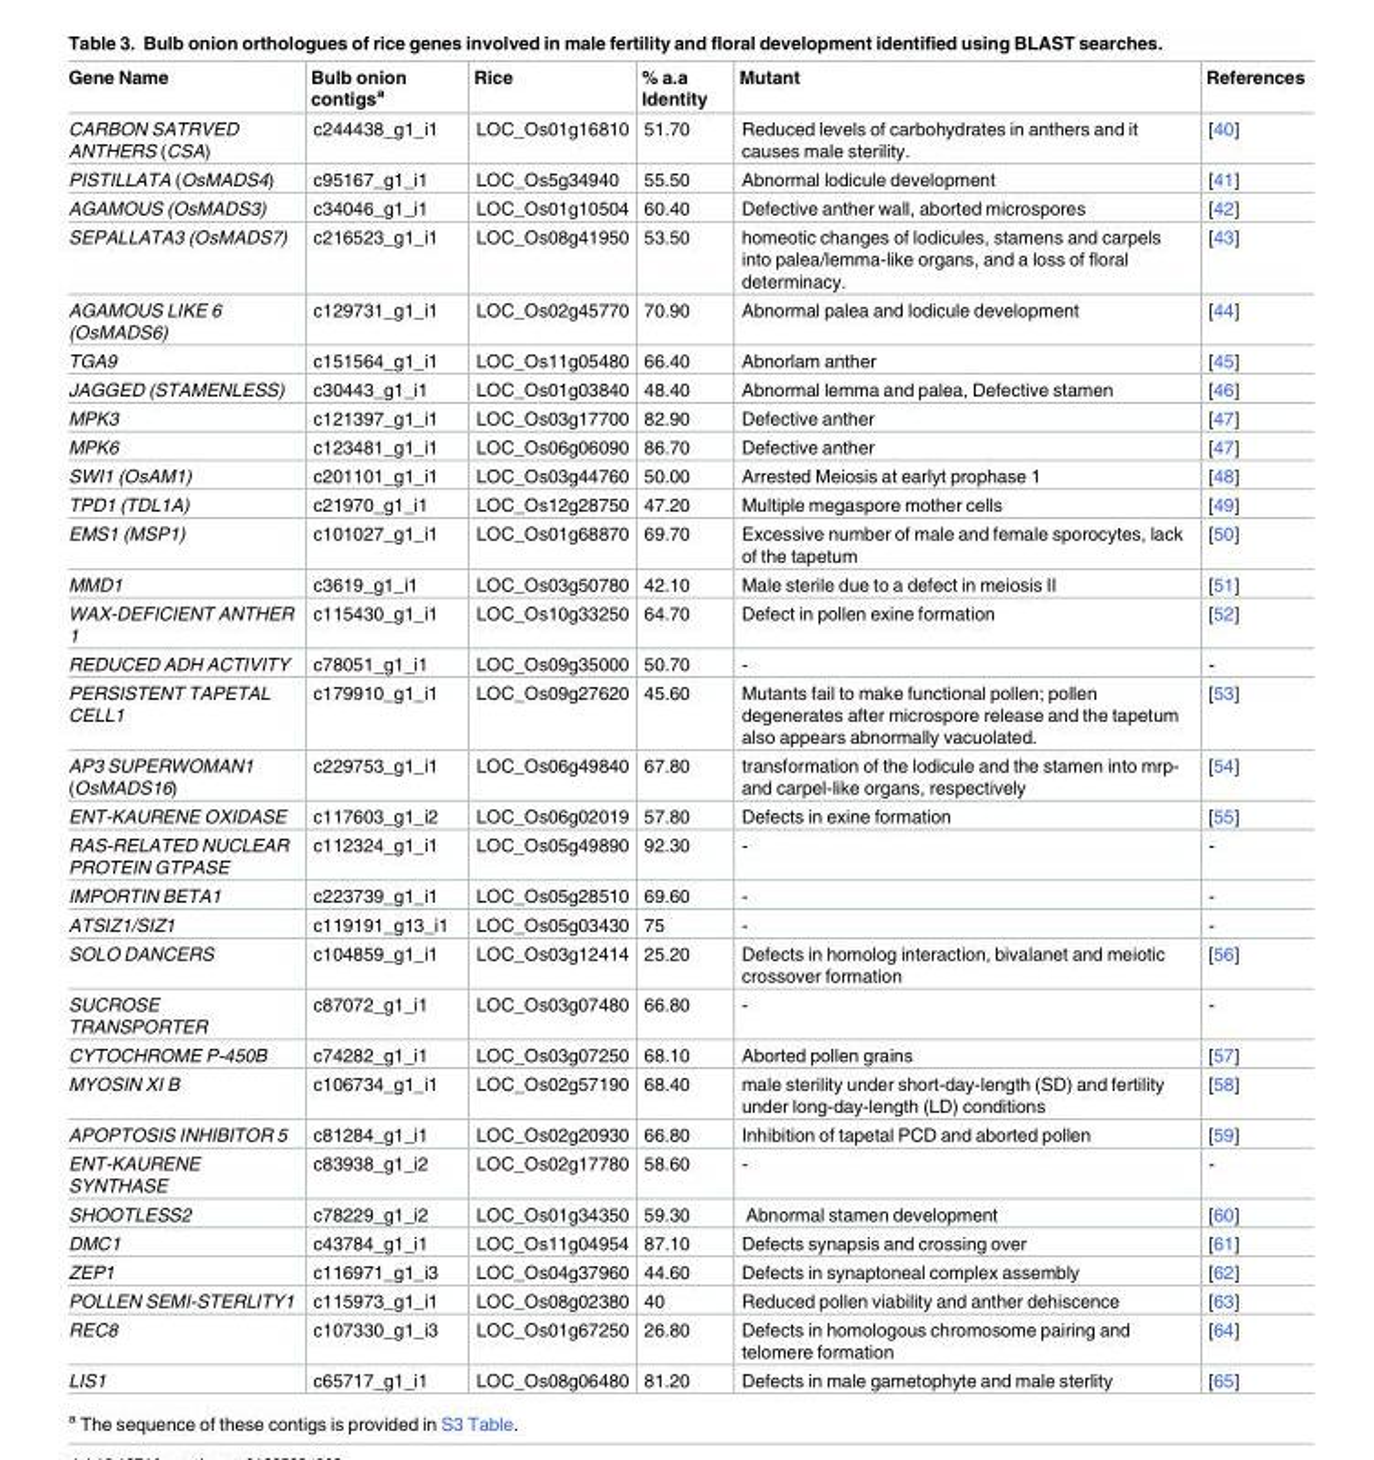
<table><thead><tr><td>Gene Name</td><td>Bulb onion contigs<sup>a</sup></td><td>Rice</td><td>% a.a Identity</td><td>Mutant</td><td>References</td></tr></thead><tbody><tr><td>CARBON SATRVED ANTHERS (CSA)</td><td>c244438_g1_i1</td><td>LOC_Os01g16810</td><td>51.70</td><td>Reduced levels of carbohydrates in anthers and it causes male sterility.</td><td>[40]</td></tr><tr><td>PISTILLATA (OsMADS4)</td><td>c95167_g1_i1</td><td>LOC_Os5g34940</td><td>55.50</td><td>Abnormal lodicule development</td><td>[41]</td></tr><tr><td>AGAMOUS (OsMADS3)</td><td>c34046_g1_i1</td><td>LOC_Os01g10504</td><td>60.40</td><td>Defective anther wall, aborted microspores</td><td>[42]</td></tr><tr><td>SEPALLATA3 (OsMADS7)</td><td>c216523_g1_i1</td><td>LOC_Os08g41950</td><td>53.50</td><td>homeotic changes of lodicules, stamens and carpels into palea/lemma-like organs, and a loss of floral determinacy.</td><td>[43]</td></tr><tr><td>AGAMOUS LIKE 6 (OsMADS6)</td><td>c129731_g1_i1</td><td>LOC_Os02g45770</td><td>70.90</td><td>Abnormal palea and lodicule development</td><td>[44]</td></tr><tr><td>TGA9</td><td>c151564_g1_i1</td><td>LOC_Os11g05480</td><td>66.40</td><td>Abnorlam anther</td><td>[45]</td></tr><tr><td>JAGGED (STAMENLESS)</td><td>c30443_g1_i1</td><td>LOC_Os01g03840</td><td>48.40</td><td>Abnormal lemma and palea, Defective stamen</td><td>[46]</td></tr><tr><td>MPK3</td><td>c121397_g1_i1</td><td>LOC_Os03g17700</td><td>82.90</td><td>Defective anther</td><td>[47]</td></tr><tr><td>MPK6</td><td>c123481_g1_i1</td><td>LOC_Os06g06090</td><td>86.70</td><td>Defective anther</td><td>[47]</td></tr><tr><td>SWI1 (OsAM1)</td><td>c201101_g1_i1</td><td>LOC_Os03g44760</td><td>50.00</td><td>Arrested Meiosis at earlyt prophase 1</td><td>[48]</td></tr><tr><td>TPD1 (TDL1A)</td><td>c21970_g1_i1</td><td>LOC_Os12g28750</td><td>47.20</td><td>Multiple megaspore mother cells</td><td>[49]</td></tr><tr><td>EMS1 (MSP1)</td><td>c101027_g1_i1</td><td>LOC_Os01g68870</td><td>69.70</td><td>Excessive number of male and female sporocytes, lack of the tapetum</td><td>[50]</td></tr><tr><td>MMD1</td><td>c3619_g1_i1</td><td>LOC_Os03g50780</td><td>42.10</td><td>Male sterile due to a defect in meiosis II</td><td>[51]</td></tr><tr><td>WAX-DEFICIENT ANTHER 1</td><td>c115430_g1_i1</td><td>LOC_Os10g33250</td><td>64.70</td><td>Defect in pollen exine formation</td><td>[52]</td></tr><tr><td>REDUCED ADH ACTIVITY</td><td>c78051_g1_i1</td><td>LOC_Os09g35000</td><td>50.70</td><td>-</td><td>-</td></tr><tr><td>PERSISTENT TAPETAL CELL1</td><td>c179910_g1_i1</td><td>LOC_Os09g27620</td><td>45.60</td><td>Mutants fail to make functional pollen; pollen degenerates after microspore release and the tapetum also appears abnormally vacuolated.</td><td>[53]</td></tr><tr><td>AP3 SUPERWOMAN1 (OsMADS16)</td><td>c229753_g1_i1</td><td>LOC_Os06g49840</td><td>67.80</td><td>transformation of the lodicule and the stamen into mrp- and carpel-like organs, respectively</td><td>[54]</td></tr><tr><td>ENT-KAURENE OXIDASE</td><td>c117603_g1_i2</td><td>LOC_Os06g02019</td><td>57.80</td><td>Defects in exine formation</td><td>[55]</td></tr><tr><td>RAS-RELATED NUCLEAR PROTEIN GTPASE</td><td>c112324_g1_i1</td><td>LOC_Os05g49890</td><td>92.30</td><td>-</td><td>-</td></tr><tr><td>IMPORTIN BETA1</td><td>c223739_g1_i1</td><td>LOC_Os05g28510</td><td>69.60</td><td>-</td><td>-</td></tr><tr><td>ATSIZ1/SIZ1</td><td>c119191_g13_i1</td><td>LOC_Os05g03430</td><td>75</td><td>-</td><td>-</td></tr><tr><td>SOLO DANCERS</td><td>c104859_g1_i1</td><td>LOC_Os03g12414</td><td>25.20</td><td>Defects in homolog interaction, bivalanet and meiotic crossover formation</td><td>[56]</td></tr><tr><td>SUCROSE TRANSPORTER</td><td>c87072_g1_i1</td><td>LOC_Os03g07480</td><td>66.80</td><td>-</td><td>-</td></tr><tr><td>CYTOCHROME P-450B</td><td>c74282_g1_i1</td><td>LOC_Os03g07250</td><td>68.10</td><td>Aborted pollen grains</td><td>[57]</td></tr><tr><td>MYOSIN XI B</td><td>c106734_g1_i1</td><td>LOC_Os02g57190</td><td>68.40</td><td>male sterility under short-day-length (SD) and fertility under long-day-length (LD) conditions</td><td>[58]</td></tr><tr><td>APOPTOSIS INHIBITOR 5</td><td>c81284_g1_i1</td><td>LOC_Os02g20930</td><td>66.80</td><td>Inhibition of tapetal PCD and aborted pollen</td><td>[59]</td></tr><tr><td>ENT-KAURENE SYNTHASE</td><td>c83938_g1_i2</td><td>LOC_Os02g17780</td><td>58.60</td><td>-</td><td>-</td></tr><tr><td>SHOOTLESS2</td><td>c78229_g1_i2</td><td>LOC_Os01g34350</td><td>59.30</td><td>Abnormal stamen development</td><td>[60]</td></tr><tr><td>DMC1</td><td>c43784_g1_i1</td><td>LOC_Os11g04954</td><td>87.10</td><td>Defects synapsis and crossing over</td><td>[61]</td></tr><tr><td>ZEP1</td><td>c116971_g1_i3</td><td>LOC_Os04g37960</td><td>44.60</td><td>Defects in synaptoneal complex assembly</td><td>[62]</td></tr><tr><td>POLLEN SEMI-STERLITY1</td><td>c115973_g1_i1</td><td>LOC_Os08g02380</td><td>40</td><td>Reduced pollen viability and anther dehiscence</td><td>[63]</td></tr><tr><td>REC8</td><td>c107330_g1_i3</td><td>LOC_Os01g67250</td><td>26.80</td><td>Defects in homologous chromosome pairing and telomere formation</td><td>[64]</td></tr><tr><td>LIS1</td><td>c65717_g1_i1</td><td>LOC_Os08g06480</td><td>81.20</td><td>Defects in male gametophyte and male sterlity</td><td>[65]</td></tr></tbody></table>